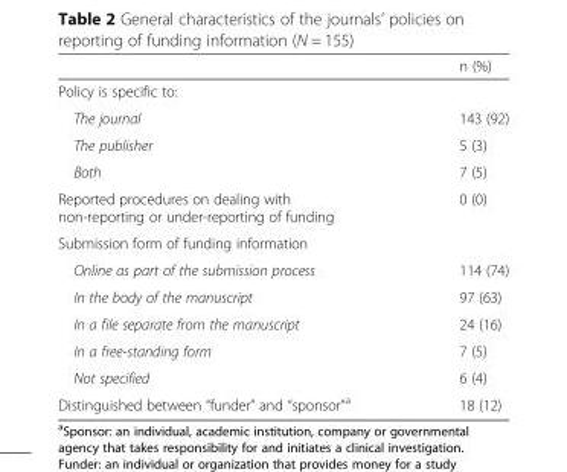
<table><thead><tr><td></td><td>n (%)</td></tr></thead><tbody><tr><td colspan="2">Policy is specific to:</td></tr><tr><td>The journal</td><td>143 (92)</td></tr><tr><td>The publisher</td><td>5 (3)</td></tr><tr><td>Both</td><td>7 (5)</td></tr><tr><td>Reported procedures on dealing with non-reporting or under-reporting of funding</td><td>0 (0)</td></tr><tr><td colspan="2">Submission form of funding information</td></tr><tr><td>Online as part of the submission process</td><td>114 (74)</td></tr><tr><td>In the body of the manuscript</td><td>97 (63)</td></tr><tr><td>In a file separate from the manuscript</td><td>24 (16)</td></tr><tr><td>In a free-standing form</td><td>7 (5)</td></tr><tr><td>Not specified</td><td>6 (4)</td></tr><tr><td>Distinguished between “funder” and “sponsor”<sup>a</sup></td><td>18 (12)</td></tr></tbody></table>